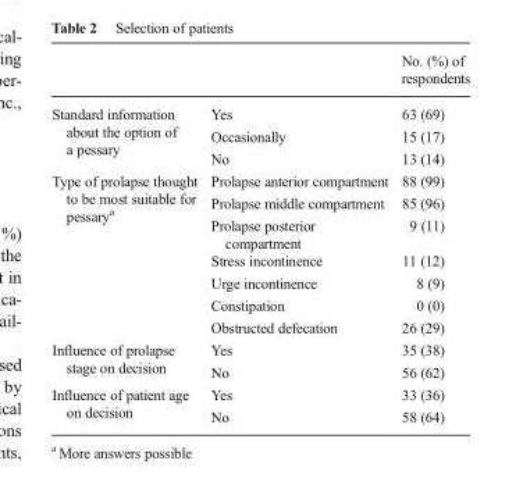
<table><thead><tr><td></td><td></td><td>No. (%) of respondents</td></tr></thead><tbody><tr><td rowspan="3">Standard information about the option of a pessary</td><td>Yes</td><td>63 (69)</td></tr><tr><td>Occasionally</td><td>15 (17)</td></tr><tr><td>No</td><td>13 (14)</td></tr><tr><td rowspan="7">Type of prolapse thought to be most suitable for pessary<sup>a</sup></td><td>Prolapse anterior compartment</td><td>88 (99)</td></tr><tr><td>Prolapse middle compartment</td><td>85 (96)</td></tr><tr><td>Prolapse posterior compartment</td><td>9 (11)</td></tr><tr><td>Stress incontinence</td><td>11 (12)</td></tr><tr><td>Urge incontinence</td><td>8 (9)</td></tr><tr><td>Constipation</td><td>0 (0)</td></tr><tr><td>Obstructed defecation</td><td>26 (29)</td></tr><tr><td rowspan="2">Influence of prolapse stage on decision</td><td>Yes</td><td>35 (38)</td></tr><tr><td>No</td><td>56 (62)</td></tr><tr><td rowspan="2">Influence of patient age on decision</td><td>Yes</td><td>33 (36)</td></tr><tr><td>No</td><td>58 (64)</td></tr></tbody></table>